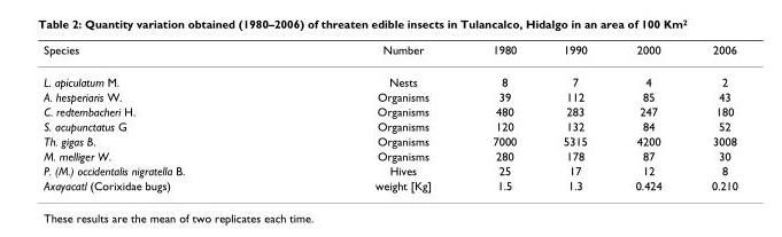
<table><thead><tr><td>Species</td><td>Number</td><td>1980</td><td>1990</td><td>2000</td><td>2006</td></tr></thead><tbody><tr><td>L. apiculatum M.</td><td>Nests</td><td>8</td><td>7</td><td>4</td><td>2</td></tr><tr><td>A. hesperiaris W.</td><td>Organisms</td><td>39</td><td>112</td><td>85</td><td>43</td></tr><tr><td>C. redtembacheri H.</td><td>Organisms</td><td>480</td><td>283</td><td>247</td><td>180</td></tr><tr><td>S. acupunctatus G</td><td>Organisms</td><td>120</td><td>132</td><td>84</td><td>52</td></tr><tr><td>Th. gigas B.</td><td>Organisms</td><td>7000</td><td>5315</td><td>4200</td><td>3008</td></tr><tr><td>M. melliger W.</td><td>Organisms</td><td>280</td><td>178</td><td>87</td><td>30</td></tr><tr><td>P. (M.) occidentalis nigratella B.</td><td>Hives</td><td>25</td><td>17</td><td>12</td><td>8</td></tr><tr><td>Axayacatl (Corixidae bugs)</td><td>weight [Kg]</td><td>1.5</td><td>1.3</td><td>0.424</td><td>0.210</td></tr></tbody></table>